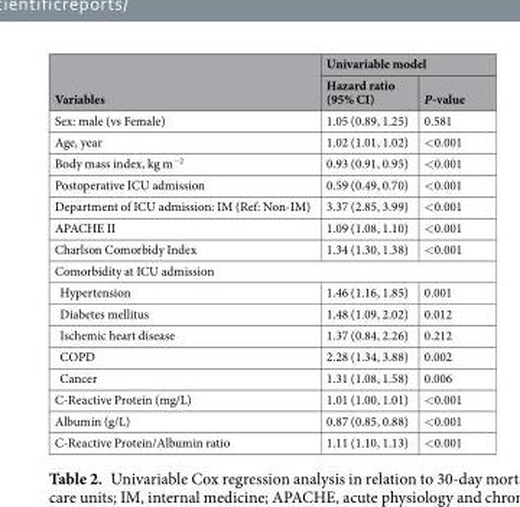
<table><thead><tr><td rowspan="2">Variables</td><td colspan="2">Univariable model</td></tr><tr><td>Hazard ratio (95% CI)</td><td>P-value</td></tr></thead><tbody><tr><td>Sex: male (vs Female)</td><td>1.05 (0.89, 1.25)</td><td>0.581</td></tr><tr><td>Age, year</td><td>1.02 (1.01, 1.02)</td><td>&lt;0.001</td></tr><tr><td>Body mass index, kg m<sup>−2</sup></td><td>0.93 (0.91, 0.95)</td><td>&lt;0.001</td></tr><tr><td>Postoperative ICU admission</td><td>0.59 (0.49, 0.70)</td><td>&lt;0.001</td></tr><tr><td>Department of ICU admission: IM (Ref: Non-IM)</td><td>3.37 (2.85, 3.99)</td><td>&lt;0.001</td></tr><tr><td>APACHE II</td><td>1.09 (1.08, 1.10)</td><td>&lt;0.001</td></tr><tr><td>Charlson Comorbidy Index</td><td>1.34 (1.30, 1.38)</td><td>&lt;0.001</td></tr><tr><td colspan="3">Comorbidity at ICU admission</td></tr><tr><td>Hypertension</td><td>1.46 (1.16, 1.85)</td><td>0.001</td></tr><tr><td>Diabetes mellitus</td><td>1.48 (1.09, 2.02)</td><td>0.012</td></tr><tr><td>Ischemic heart disease</td><td>1.37 (0.84, 2.26)</td><td>0.212</td></tr><tr><td>COPD</td><td>2.28 (1.34, 3.88)</td><td>0.002</td></tr><tr><td>Cancer</td><td>1.31 (1.08, 1.58)</td><td>0.006</td></tr><tr><td>C-Reactive Protein (mg/L)</td><td>1.01 (1.00, 1.01)</td><td>&lt;0.001</td></tr><tr><td>Albumin (g/L)</td><td>0.87 (0.85, 0.88)</td><td>&lt;0.001</td></tr><tr><td>C-Reactive Protein/Albumin ratio</td><td>1.11 (1.10, 1.13)</td><td>&lt;0.001</td></tr></tbody></table>